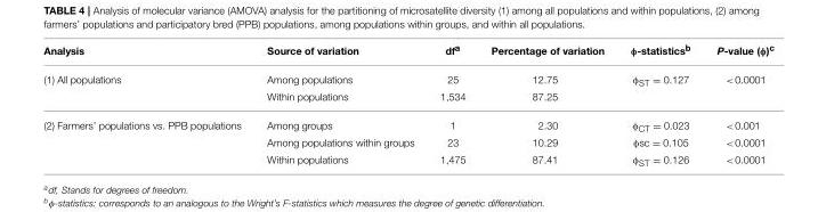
<table><thead><tr><td>Analysis</td><td>Source of variation</td><td>df<sup>a</sup></td><td>Percentage of variation</td><td>φ-statistics<sup>b</sup></td><td>P-value (φ)<sup>c</sup></td></tr></thead><tbody><tr><td rowspan="2">(1) All populations</td><td>Among populations</td><td>25</td><td>12.75</td><td>φ<sub>ST</sub> = 0.127</td><td>&lt;0.0001</td></tr><tr><td>Within populations</td><td>1,534</td><td>87.25</td><td></td><td></td></tr><tr><td rowspan="3">(2) Farmers’ populations vs. PPB populations</td><td>Among groups</td><td>1</td><td>2.30</td><td>φ<sub>CT</sub> = 0.023</td><td>&lt;0.001</td></tr><tr><td>Among populations within groups</td><td>23</td><td>10.29</td><td>φsc = 0.105</td><td>&lt;0.0001</td></tr><tr><td>Within populations</td><td>1,475</td><td>87.41</td><td>φ<sub>ST</sub> = 0.126</td><td>&lt;0.0001</td></tr></tbody></table>